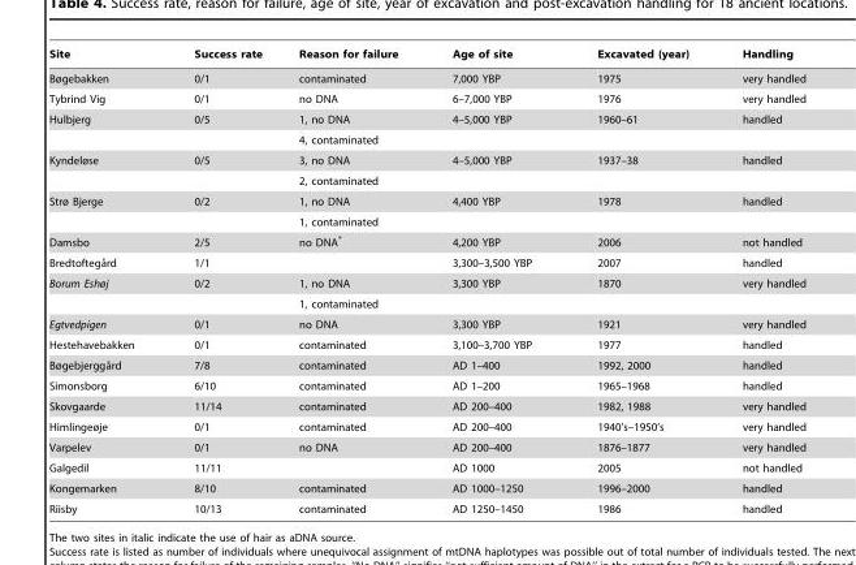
<table><thead><tr><td>Site</td><td>Success rate</td><td>Reason for failure</td><td>Age of site</td><td>Excavated (year)</td><td>Handling</td></tr></thead><tbody><tr><td>Bøgebakken</td><td>0/1</td><td>contaminated</td><td>7,000 YBP</td><td>1975</td><td>very handled</td></tr><tr><td>Tybrind Vig</td><td>0/1</td><td>no DNA</td><td>6–7,000 YBP</td><td>1976</td><td>very handled</td></tr><tr><td rowspan="2">Hulbjerg</td><td>0/5</td><td>1, no DNA</td><td>4–5,000 YBP</td><td>1960–61</td><td>handled</td></tr><tr><td></td><td>4, contaminated</td><td></td><td></td><td></td></tr><tr><td rowspan="2">Kyndeløse</td><td>0/5</td><td>3, no DNA</td><td>4–5,000 YBP</td><td>1937–38</td><td>handled</td></tr><tr><td></td><td>2, contaminated</td><td></td><td></td><td></td></tr><tr><td rowspan="2">Strø Bjerge</td><td>0/2</td><td>1, no DNA</td><td>4,400 YBP</td><td>1978</td><td>handled</td></tr><tr><td></td><td>1, contaminated</td><td></td><td></td><td></td></tr><tr><td>Damsbo</td><td>2/5</td><td>no DNA*</td><td>4,200 YBP</td><td>2006</td><td>not handled</td></tr><tr><td>Bredtoftega˚rd</td><td>1/1</td><td></td><td>3,300–3,500 YBP</td><td>2007</td><td>handled</td></tr><tr><td rowspan="2">Borum Eshøj</td><td>0/2</td><td>1, no DNA</td><td>3,300 YBP</td><td>1870</td><td>very handled</td></tr><tr><td></td><td>1, contaminated</td><td></td><td></td><td></td></tr><tr><td>Egtvedpigen</td><td>0/1</td><td>no DNA</td><td>3,300 YBP</td><td>1921</td><td>very handled</td></tr><tr><td>Hestehavebakken</td><td>0/1</td><td>contaminated</td><td>3,100–3,700 YBP</td><td>1977</td><td>handled</td></tr><tr><td>Bøgebjergga˚rd</td><td>7/8</td><td>contaminated</td><td>AD 1–400</td><td>1992, 2000</td><td>handled</td></tr><tr><td>Simonsborg</td><td>6/10</td><td>contaminated</td><td>AD 1–200</td><td>1965–1968</td><td>handled</td></tr><tr><td>Skovgaarde</td><td>11/14</td><td>contaminated</td><td>AD 200–400</td><td>1982, 1988</td><td>very handled</td></tr><tr><td>Himlingeøje</td><td>0/1</td><td>contaminated</td><td>AD 200–400</td><td>1940’s–1950’s</td><td>very handled</td></tr><tr><td>Varpelev</td><td>0/1</td><td>no DNA</td><td>AD 200–400</td><td>1876–1877</td><td>very handled</td></tr><tr><td>Galgedil</td><td>11/11</td><td></td><td>AD 1000</td><td>2005</td><td>not handled</td></tr><tr><td>Kongemarken</td><td>8/10</td><td>contaminated</td><td>AD 1000–1250</td><td>1996–2000</td><td>handled</td></tr><tr><td>Riisby</td><td>10/13</td><td>contaminated</td><td>AD 1250–1450</td><td>1986</td><td>handled</td></tr></tbody></table>